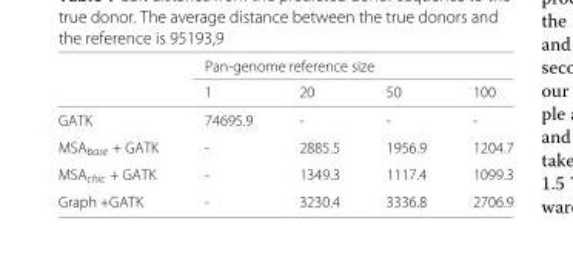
<table><thead><tr><td rowspan="2"></td><td colspan="4">Pan-genome reference size</td></tr><tr><td>1</td><td>20</td><td>50</td><td>100</td></tr></thead><tbody><tr><td>GATK</td><td>74695.9</td><td>-</td><td>-</td><td>-</td></tr><tr><td>MSA<sub>base</sub> + GATK</td><td>-</td><td>2885.5</td><td>1956.9</td><td>1204.7</td></tr><tr><td>MSA<sub>chic</sub> + GATK</td><td>-</td><td>1349.3</td><td>1117.4</td><td>1099.3</td></tr><tr><td>Graph +GATK</td><td>-</td><td>3230.4</td><td>3336.8</td><td>2706.9</td></tr></tbody></table>